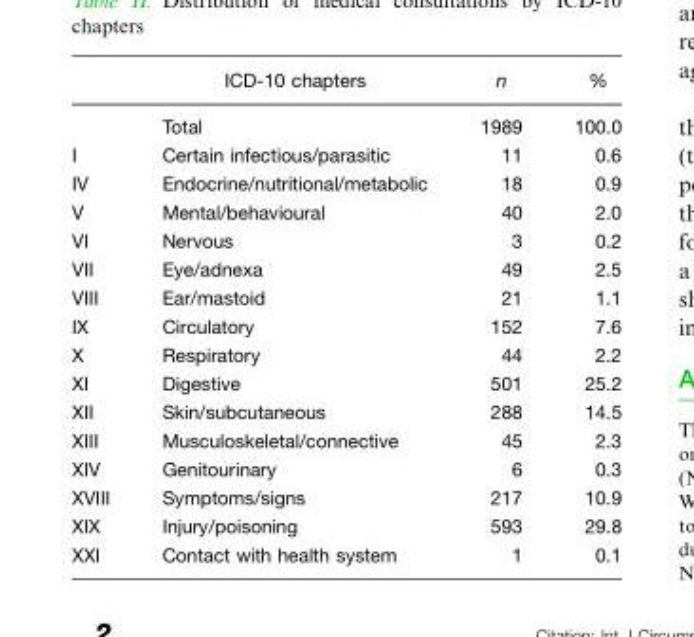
<table><thead><tr><td></td><td>ICD-10 chapters</td><td>n</td><td>%</td></tr></thead><tbody><tr><td></td><td>Total</td><td>1989</td><td>100.0</td></tr><tr><td>I</td><td>Certain infectious/parasitic</td><td>11</td><td>0.6</td></tr><tr><td>IV</td><td>Endocrine/nutritional/metabolic</td><td>18</td><td>0.9</td></tr><tr><td>V</td><td>Mental/behavioural</td><td>40</td><td>2.0</td></tr><tr><td>VI</td><td>Nervous</td><td>3</td><td>0.2</td></tr><tr><td>VII</td><td>Eye/adnexa</td><td>49</td><td>2.5</td></tr><tr><td>VIII</td><td>Ear/mastoid</td><td>21</td><td>1.1</td></tr><tr><td>IX</td><td>Circulatory</td><td>152</td><td>7.6</td></tr><tr><td>X</td><td>Respiratory</td><td>44</td><td>2.2</td></tr><tr><td>XI</td><td>Digestive</td><td>501</td><td>25.2</td></tr><tr><td>XII</td><td>Skin/subcutaneous</td><td>288</td><td>14.5</td></tr><tr><td>XIII</td><td>Musculoskeletal/connective</td><td>45</td><td>2.3</td></tr><tr><td>XIV</td><td>Genitourinary</td><td>6</td><td>0.3</td></tr><tr><td>XVIII</td><td>Symptoms/signs</td><td>217</td><td>10.9</td></tr><tr><td>XIX</td><td>Injury/poisoning</td><td>593</td><td>29.8</td></tr><tr><td>XXI</td><td>Contact with health system</td><td>1</td><td>0.1</td></tr></tbody></table>